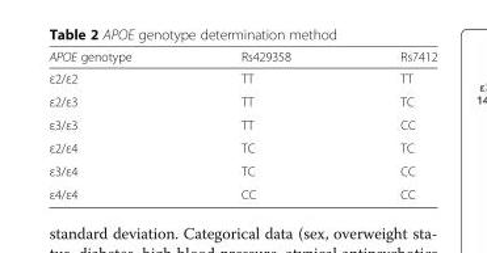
<table><thead><tr><td>APOE genotype</td><td>Rs429358</td><td>Rs7412</td></tr></thead><tbody><tr><td>ε2/ε2</td><td>TT</td><td>TT</td></tr><tr><td>ε2/ε3</td><td>TT</td><td>TC</td></tr><tr><td>ε3/ε3</td><td>TT</td><td>CC</td></tr><tr><td>ε2/ε4</td><td>TC</td><td>TC</td></tr><tr><td>ε3/ε4</td><td>TC</td><td>CC</td></tr><tr><td>ε4/ε4</td><td>CC</td><td>CC</td></tr></tbody></table>